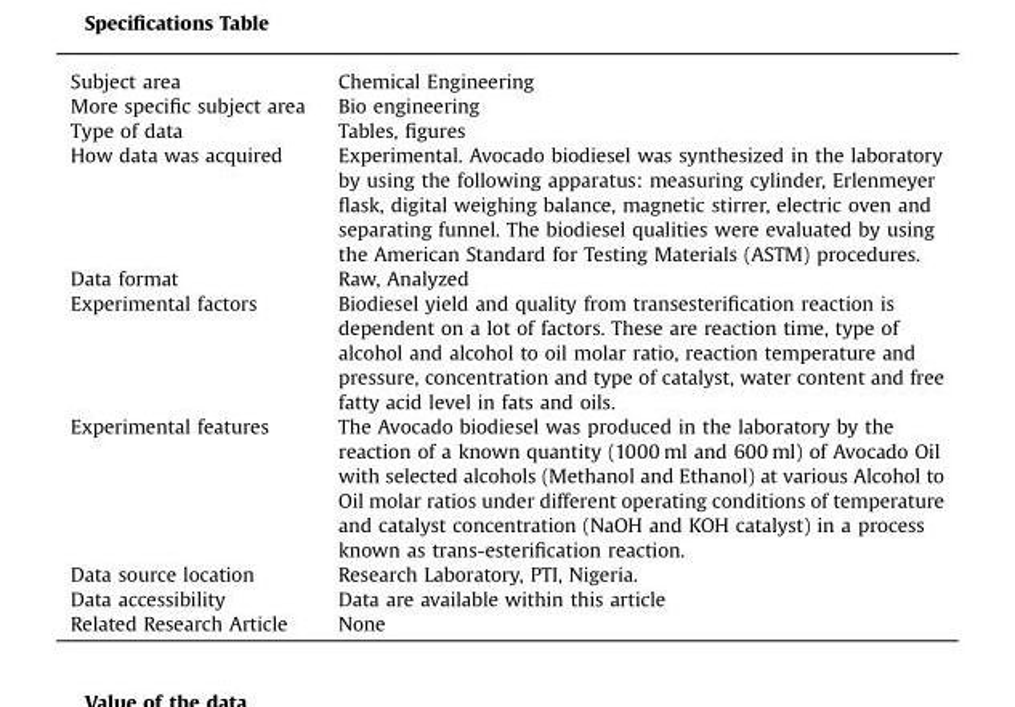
<table><tbody><tr><td>Subject area</td><td>Chemical Engineering</td></tr><tr><td>More specific subject area</td><td>Bio engineering</td></tr><tr><td>Type of data</td><td>Tables, figures</td></tr><tr><td>How data was acquired</td><td>Experimental. Avocado biodiesel was synthesized in the laboratory by using the following apparatus: measuring cylinder, Erlenmeyer flask, digital weighing balance, magnetic stirrer, electric oven and separating funnel. The biodiesel qualities were evaluated by using the American Standard for Testing Materials (ASTM) procedures.</td></tr><tr><td>Data format</td><td>Raw, Analyzed</td></tr><tr><td>Experimental factors</td><td>Biodiesel yield and quality from transesterification reaction is dependent on a lot of factors. These are reaction time, type of alcohol and alcohol to oil molar ratio, reaction temperature and pressure, concentration and type of catalyst, water content and free fatty acid level in fats and oils.</td></tr><tr><td>Experimental features</td><td>The Avocado biodiesel was produced in the laboratory by the reaction of a known quantity (1000 ml and 600 ml) of Avocado Oil with selected alcohols (Methanol and Ethanol) at various Alcohol to Oil molar ratios under different operating conditions of temperature and catalyst concentration (NaOH and KOH catalyst) in a process known as trans-esterification reaction.</td></tr><tr><td>Data source location</td><td>Research Laboratory, PTI, Nigeria.</td></tr><tr><td>Data accessibility</td><td>Data are available within this article</td></tr><tr><td>Related Research Article</td><td>None</td></tr></tbody></table>